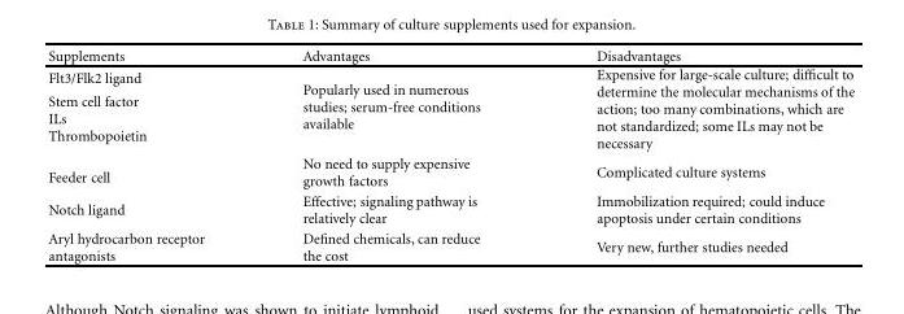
<table><thead><tr><td>Supplements</td><td>Advantages</td><td>Disadvantages</td></tr></thead><tbody><tr><td>Flt3/Flk2 ligand</td><td rowspan="4">Popularly used in numerous studies; serum-free conditions available</td><td rowspan="4">Expensive for large-scale culture; difficult to determine the molecular mechanisms of the action; too many combinations, which are not standardized; some ILs may not be necessary</td></tr><tr><td>Stem cell factor</td></tr><tr><td>ILs</td></tr><tr><td>Thrombopoietin</td></tr><tr><td>Feeder cell</td><td>No need to supply expensive growth factors</td><td>Complicated culture systems</td></tr><tr><td>Notch ligand</td><td>Effective; signaling pathway is relatively clear</td><td>Immobilization required; could induce apoptosis under certain conditions</td></tr><tr><td>Aryl hydrocarbon receptor antagonists</td><td>Defined chemicals, can reduce the cost</td><td>Very new, further studies needed</td></tr></tbody></table>